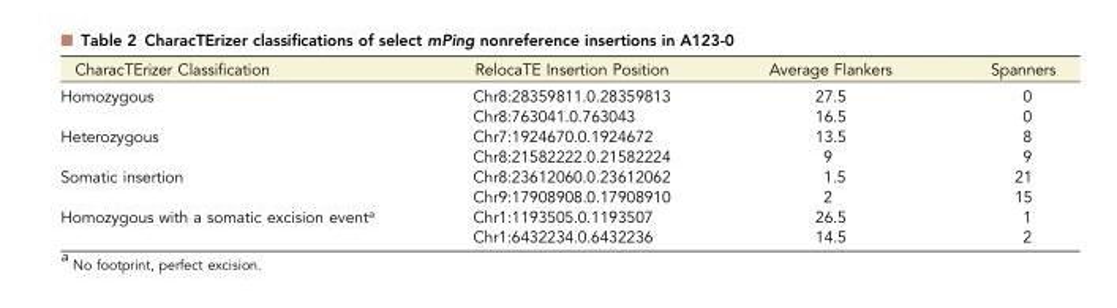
<table><thead><tr><td>CharacTErizer Classification</td><td>RelocaTE Insertion Position</td><td>Average Flankers</td><td>Spanners</td></tr></thead><tbody><tr><td rowspan="2">Homozygous</td><td>Chr8:28359811.0.28359813</td><td>27.5</td><td>0</td></tr><tr><td>Chr8:763041.0.763043</td><td>16.5</td><td>0</td></tr><tr><td rowspan="2">Heterozygous</td><td>Chr7:1924670.0.1924672</td><td>13.5</td><td>8</td></tr><tr><td>Chr8:21582222.0.21582224</td><td>9</td><td>9</td></tr><tr><td rowspan="2">Somatic insertion</td><td>Chr8:23612060.0.23612062</td><td>1.5</td><td>21</td></tr><tr><td>Chr9:17908908.0.17908910</td><td>2</td><td>15</td></tr><tr><td rowspan="2">Homozygous with a somatic excision event<sup>a</sup></td><td>Chr1:1193505.0.1193507</td><td>26.5</td><td>1</td></tr><tr><td>Chr1:6432234.0.6432236</td><td>14.5</td><td>2</td></tr></tbody></table>